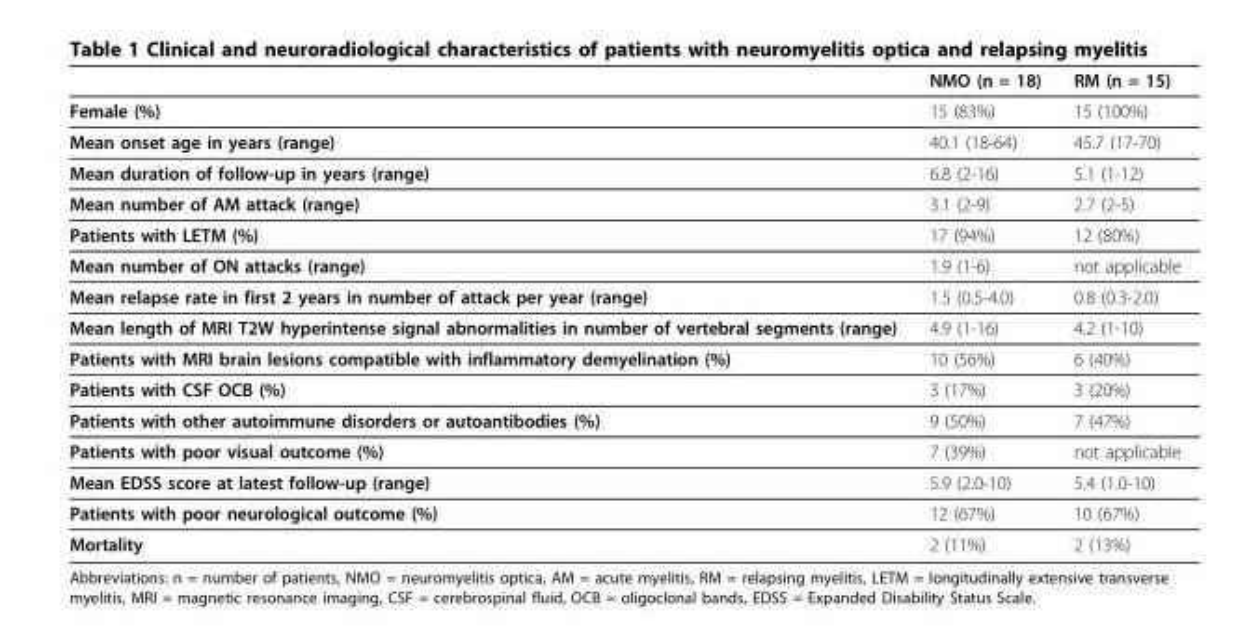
<table><thead><tr><td></td><td>NMO (n = 18)</td><td>RM (n = 15)</td></tr></thead><tbody><tr><td>Female (%)</td><td>15 (83%)</td><td>15 (100%)</td></tr><tr><td>Mean onset age in years (range)</td><td>40.1 (18-64)</td><td>45.7 (17-70)</td></tr><tr><td>Mean duration of follow-up in years (range)</td><td>6.8 (2-16)</td><td>5.1 (1-12)</td></tr><tr><td>Mean number of AM attack (range)</td><td>3.1 (2-9)</td><td>2.7 (2-5)</td></tr><tr><td>Patients with LETM (%)</td><td>17 (94%)</td><td>12 (80%)</td></tr><tr><td>Mean number of ON attacks (range)</td><td>1.9 (1-6)</td><td>not applicable</td></tr><tr><td>Mean relapse rate in first 2 years in number of attack per year (range)</td><td>1.5 (0.5-4.0)</td><td>0.8 (0.3-2.0)</td></tr><tr><td>Mean length of MRI T2W hyperintense signal abnormalities in number of vertebral segments (range)</td><td>4.9 (1-16)</td><td>4.2 (1-10)</td></tr><tr><td>Patients with MRI brain lesions compatible with inflammatory demyelination (%)</td><td>10 (56%)</td><td>6 (40%)</td></tr><tr><td>Patients with CSF OCB (%)</td><td>3 (17%)</td><td>3 (20%)</td></tr><tr><td>Patients with other autoimmune disorders or autoantibodies (%)</td><td>9 (50%)</td><td>7 (47%)</td></tr><tr><td>Patients with poor visual outcome (%)</td><td>7 (39%)</td><td>not applicable</td></tr><tr><td>Mean EDSS score at latest follow-up (range)</td><td>5.9 (2.0-10)</td><td>5.4 (1.0-10)</td></tr><tr><td>Patients with poor neurological outcome (%)</td><td>12 (67%)</td><td>10 (67%)</td></tr><tr><td>Mortality</td><td>2 (11%)</td><td>2 (13%)</td></tr></tbody></table>